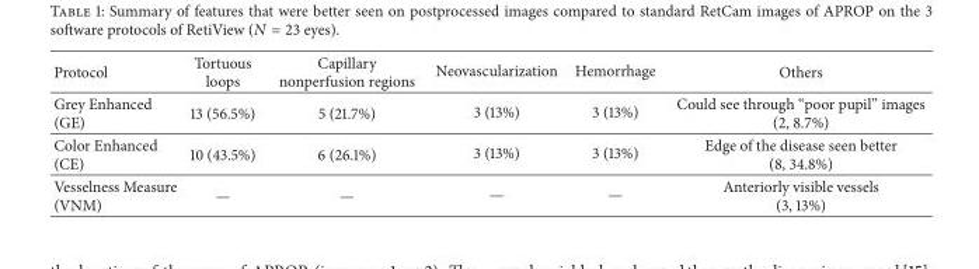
<table><thead><tr><td>Protocol</td><td>Tortuous loops</td><td>Capillary nonperfusion regions</td><td>Neovascularization</td><td>Hemorrhage</td><td>Others</td></tr></thead><tbody><tr><td>Grey Enhanced (GE)</td><td>13 (56.5%)</td><td>5 (21.7%)</td><td>3 (13%)</td><td>3 (13%)</td><td>Could see through “poor pupil” images (2, 8.7%)</td></tr><tr><td>Color Enhanced (CE)</td><td>10 (43.5%)</td><td>6 (26.1%)</td><td>3 (13%)</td><td>3 (13%)</td><td>Edge of the disease seen better (8, 34.8%)</td></tr><tr><td>Vesselness Measure (VNM)</td><td>—</td><td>—</td><td>—</td><td>—</td><td>Anteriorly visible vessels (3, 13%)</td></tr></tbody></table>